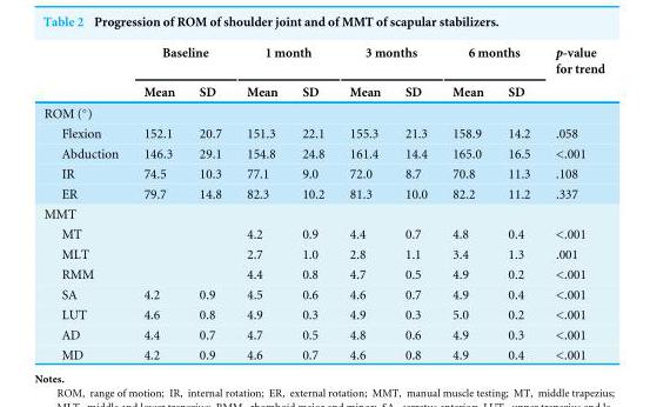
<table><thead><tr><td rowspan="2"></td><td colspan="2">Baseline</td><td colspan="2">1 month</td><td colspan="2">3 months</td><td colspan="2">6 months</td><td rowspan="2">p-value for trend</td></tr><tr><td>Mean</td><td>SD</td><td>Mean</td><td>SD</td><td>Mean</td><td>SD</td><td>Mean</td><td>SD</td></tr></thead><tbody><tr><td colspan="10">ROM (◦)</td></tr><tr><td>Flexion</td><td>152.1</td><td>20.7</td><td>151.3</td><td>22.1</td><td>155.3</td><td>21.3</td><td>158.9</td><td>14.2</td><td>.058</td></tr><tr><td>Abduction</td><td>146.3</td><td>29.1</td><td>154.8</td><td>24.8</td><td>161.4</td><td>14.4</td><td>165.0</td><td>16.5</td><td>&lt;.001</td></tr><tr><td>IR</td><td>74.5</td><td>10.3</td><td>77.1</td><td>9.0</td><td>72.0</td><td>8.7</td><td>70.8</td><td>11.3</td><td>.108</td></tr><tr><td>ER</td><td>79.7</td><td>14.8</td><td>82.3</td><td>10.2</td><td>81.3</td><td>10.0</td><td>82.2</td><td>11.2</td><td>.337</td></tr><tr><td colspan="10">MMT</td></tr><tr><td>MT</td><td></td><td></td><td>4.2</td><td>0.9</td><td>4.4</td><td>0.7</td><td>4.8</td><td>0.4</td><td>&lt;.001</td></tr><tr><td>MLT</td><td></td><td></td><td>2.7</td><td>1.0</td><td>2.8</td><td>1.1</td><td>3.4</td><td>1.3</td><td>.001</td></tr><tr><td>RMM</td><td></td><td></td><td>4.4</td><td>0.8</td><td>4.7</td><td>0.5</td><td>4.9</td><td>0.2</td><td>&lt;.001</td></tr><tr><td>SA</td><td>4.2</td><td>0.9</td><td>4.5</td><td>0.6</td><td>4.6</td><td>0.7</td><td>4.9</td><td>0.4</td><td>&lt;.001</td></tr><tr><td>LUT</td><td>4.6</td><td>0.8</td><td>4.9</td><td>0.3</td><td>4.9</td><td>0.3</td><td>5.0</td><td>0.2</td><td>&lt;.001</td></tr><tr><td>AD</td><td>4.4</td><td>0.7</td><td>4.7</td><td>0.5</td><td>4.8</td><td>0.6</td><td>4.9</td><td>0.3</td><td>&lt;.001</td></tr><tr><td>MD</td><td>4.2</td><td>0.9</td><td>4.6</td><td>0.7</td><td>4.6</td><td>0.8</td><td>4.9</td><td>0.4</td><td>&lt;.001</td></tr></tbody></table>